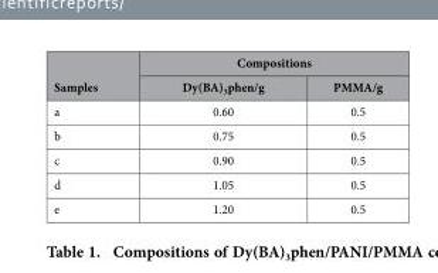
<table><thead><tr><td rowspan="2">Samples</td><td colspan="2">Compositions</td></tr><tr><td>Dy(BA)<sub>3</sub>phen/g</td><td>PMMA/g</td></tr></thead><tbody><tr><td>a</td><td>0.60</td><td>0.5</td></tr><tr><td>b</td><td>0.75</td><td>0.5</td></tr><tr><td>c</td><td>0.90</td><td>0.5</td></tr><tr><td>d</td><td>1.05</td><td>0.5</td></tr><tr><td>e</td><td>1.20</td><td>0.5</td></tr></tbody></table>